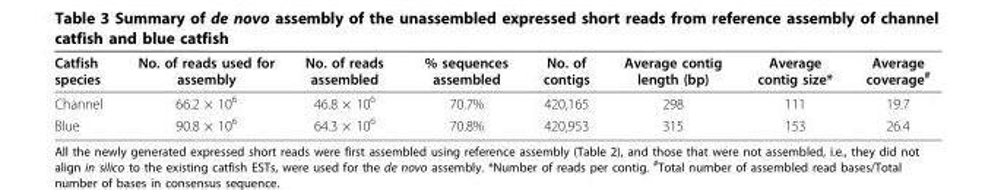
<table><thead><tr><td>Catfish species</td><td>No. of reads used for assembly</td><td>No. of reads assembled</td><td>% sequences assembled</td><td>No. of contigs</td><td>Average contig length (bp)</td><td>Average contig size*</td><td>Average coverage<sup>#</sup></td></tr></thead><tbody><tr><td>Channel</td><td>66.2 × 10<sup>6</sup></td><td>46.8 × 10<sup>6</sup></td><td>70.7%</td><td>420,165</td><td>298</td><td>111</td><td>19.7</td></tr><tr><td>Blue</td><td>90.8 × 10<sup>6</sup></td><td>64.3 × 10<sup>6</sup></td><td>70.8%</td><td>420,953</td><td>315</td><td>153</td><td>26.4</td></tr></tbody></table>